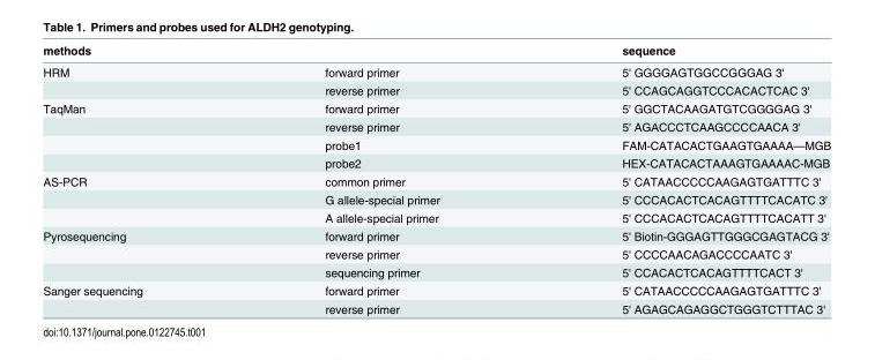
<table><thead><tr><td>methods</td><td></td><td>sequence</td></tr></thead><tbody><tr><td rowspan="2">HRM</td><td>forward primer</td><td>5&#x27; GGGGAGTGGCCGGGAG 3&#x27;</td></tr><tr><td>reverse primer</td><td>5&#x27; CCAGCAGGTCCCACACTCAC 3&#x27;</td></tr><tr><td rowspan="4">TaqMan</td><td>forward primer</td><td>5&#x27; GGCTACAAGATGTCGGGGAG 3&#x27;</td></tr><tr><td>reverse primer</td><td>5&#x27; AGACCCTCAAGCCCCAACA 3&#x27;</td></tr><tr><td>probe1</td><td>FAM-CATACACTGAAGTGAAAA—MGB</td></tr><tr><td>probe2</td><td>HEX-CATACACTAAAGTGAAAAC-MGB</td></tr><tr><td rowspan="3">AS-PCR</td><td>common primer</td><td>5&#x27; CATAACCCCCAAGAGTGATTTC 3&#x27;</td></tr><tr><td>G allele-special primer</td><td>5&#x27; CCCACACTCACAGTTTTCACATC 3&#x27;</td></tr><tr><td>A allele-special primer</td><td>5&#x27; CCCACACTCACAGTTTTCACATT 3&#x27;</td></tr><tr><td rowspan="3">Pyrosequencing</td><td>forward primer</td><td>5&#x27; Biotin-GGGAGTTGGGCGAGTACG 3&#x27;</td></tr><tr><td>reverse primer</td><td>5&#x27; CCCCAACAGACCCCAATC 3&#x27;</td></tr><tr><td>sequencing primer</td><td>5&#x27; CCACACTCACAGTTTTCACT 3&#x27;</td></tr><tr><td rowspan="2">Sanger sequencing</td><td>forward primer</td><td>5&#x27; CATAACCCCCAAGAGTGATTTC 3&#x27;</td></tr><tr><td>reverse primer</td><td>5&#x27; AGAGCAGAGGCTGGGTCTTTAC 3&#x27;</td></tr></tbody></table>